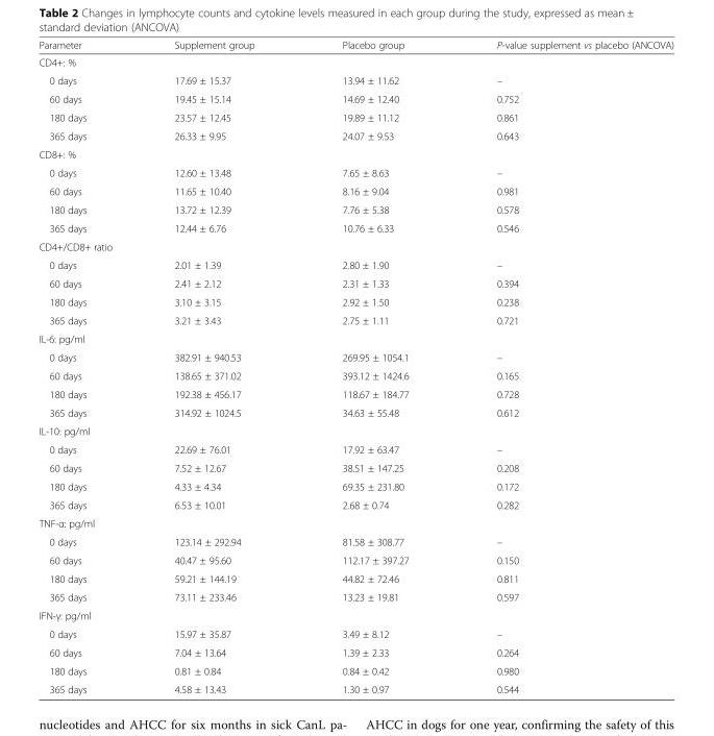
<table><thead><tr><td>Parameter</td><td>Supplement group</td><td>Placebo group</td><td>P-value supplement vs placebo (ANCOVA)</td></tr></thead><tbody><tr><td colspan="4">CD4+: %</td></tr><tr><td>0 days</td><td>17.69 ± 15.37</td><td>13.94 ± 11.62</td><td>–</td></tr><tr><td>60 days</td><td>19.45 ± 15.14</td><td>14.69 ± 12.40</td><td>0.752</td></tr><tr><td>180 days</td><td>23.57 ± 12.45</td><td>19.89 ± 11.12</td><td>0.861</td></tr><tr><td>365 days</td><td>26.33 ± 9.95</td><td>24.07 ± 9.53</td><td>0.643</td></tr><tr><td colspan="4">CD8+: %</td></tr><tr><td>0 days</td><td>12.60 ± 13.48</td><td>7.65 ± 8.63</td><td>–</td></tr><tr><td>60 days</td><td>11.65 ± 10.40</td><td>8.16 ± 9.04</td><td>0.981</td></tr><tr><td>180 days</td><td>13.72 ± 12.39</td><td>7.76 ± 5.38</td><td>0.578</td></tr><tr><td>365 days</td><td>12.44 ± 6.76</td><td>10.76 ± 6.33</td><td>0.546</td></tr><tr><td colspan="4">CD4+/CD8+ ratio</td></tr><tr><td>0 days</td><td>2.01 ± 1.39</td><td>2.80 ± 1.90</td><td>–</td></tr><tr><td>60 days</td><td>2.41 ± 2.12</td><td>2.31 ± 1.33</td><td>0.394</td></tr><tr><td>180 days</td><td>3.10 ± 3.15</td><td>2.92 ± 1.50</td><td>0.238</td></tr><tr><td>365 days</td><td>3.21 ± 3.43</td><td>2.75 ± 1.11</td><td>0.721</td></tr><tr><td colspan="4">IL-6: pg/ml</td></tr><tr><td>0 days</td><td>382.91 ± 940.53</td><td>269.95 ± 1054.1</td><td>–</td></tr><tr><td>60 days</td><td>138.65 ± 371.02</td><td>393.12 ± 1424.6</td><td>0.165</td></tr><tr><td>180 days</td><td>192.38 ± 456.17</td><td>118.67 ± 184.77</td><td>0.728</td></tr><tr><td>365 days</td><td>314.92 ± 1024.5</td><td>34.63 ± 55.48</td><td>0.612</td></tr><tr><td colspan="4">IL-10: pg/ml</td></tr><tr><td>0 days</td><td>22.69 ± 76.01</td><td>17.92 ± 63.47</td><td>–</td></tr><tr><td>60 days</td><td>7.52 ± 12.67</td><td>38.51 ± 147.25</td><td>0.208</td></tr><tr><td>180 days</td><td>4.33 ± 4.34</td><td>69.35 ± 231.80</td><td>0.172</td></tr><tr><td>365 days</td><td>6.53 ± 10.01</td><td>2.68 ± 0.74</td><td>0.282</td></tr><tr><td colspan="4">TNF-α: pg/ml</td></tr><tr><td>0 days</td><td>123.14 ± 292.94</td><td>81.58 ± 308.77</td><td>–</td></tr><tr><td>60 days</td><td>40.47 ± 95.60</td><td>112.17 ± 397.27</td><td>0.150</td></tr><tr><td>180 days</td><td>59.21 ± 144.19</td><td>44.82 ± 72.46</td><td>0.811</td></tr><tr><td>365 days</td><td>73.11 ± 233.46</td><td>13.23 ± 19.81</td><td>0.597</td></tr><tr><td colspan="4">IFN-γ: pg/ml</td></tr><tr><td>0 days</td><td>15.97 ± 35.87</td><td>3.49 ± 8.12</td><td>–</td></tr><tr><td>60 days</td><td>7.04 ± 13.64</td><td>1.39 ± 2.33</td><td>0.264</td></tr><tr><td>180 days</td><td>0.81 ± 0.84</td><td>0.84 ± 0.42</td><td>0.980</td></tr><tr><td>365 days</td><td>4.58 ± 13.43</td><td>1.30 ± 0.97</td><td>0.544</td></tr></tbody></table>